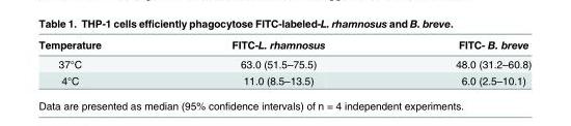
<table><thead><tr><td>Temperature</td><td>FITC-L. rhamnosus</td><td>FITC- B. breve</td></tr></thead><tbody><tr><td>37°C</td><td>63.0 (51.5–75.5)</td><td>48.0 (31.2–60.8)</td></tr><tr><td>4°C</td><td>11.0 (8.5–13.5)</td><td>6.0 (2.5–10.1)</td></tr></tbody></table>